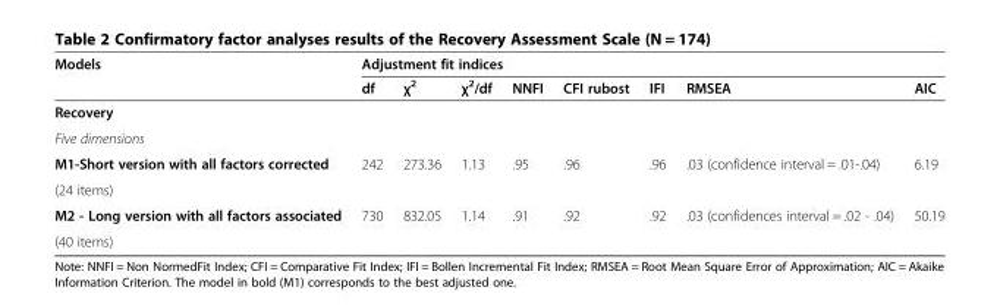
<table><thead><tr><td rowspan="2">Models</td><td colspan="8">Adjustment fit indices</td></tr><tr><td>df</td><td>χ<sup>2</sup></td><td>χ<sup>2</sup>/df</td><td>NNFI</td><td>CFI rubost</td><td>IFI</td><td>RMSEA</td><td>AIC</td></tr></thead><tbody><tr><td colspan="9">Recovery</td></tr><tr><td colspan="9">Five dimensions</td></tr><tr><td>M1-Short version with all factors corrected</td><td rowspan="2">242</td><td rowspan="2">273.36</td><td rowspan="2">1.13</td><td rowspan="2">.95</td><td rowspan="2">.96</td><td rowspan="2">.96</td><td rowspan="2">.03 (confidence interval = .01-.04)</td><td rowspan="2">6.19</td></tr><tr><td>(24 items)</td></tr><tr><td>M2 - Long version with all factors associated</td><td rowspan="2">730</td><td rowspan="2">832.05</td><td rowspan="2">1.14</td><td rowspan="2">.91</td><td rowspan="2">.92</td><td rowspan="2">.92</td><td rowspan="2">.03 (confidences interval = .02 - .04)</td><td rowspan="2">50.19</td></tr><tr><td>(40 items)</td></tr></tbody></table>